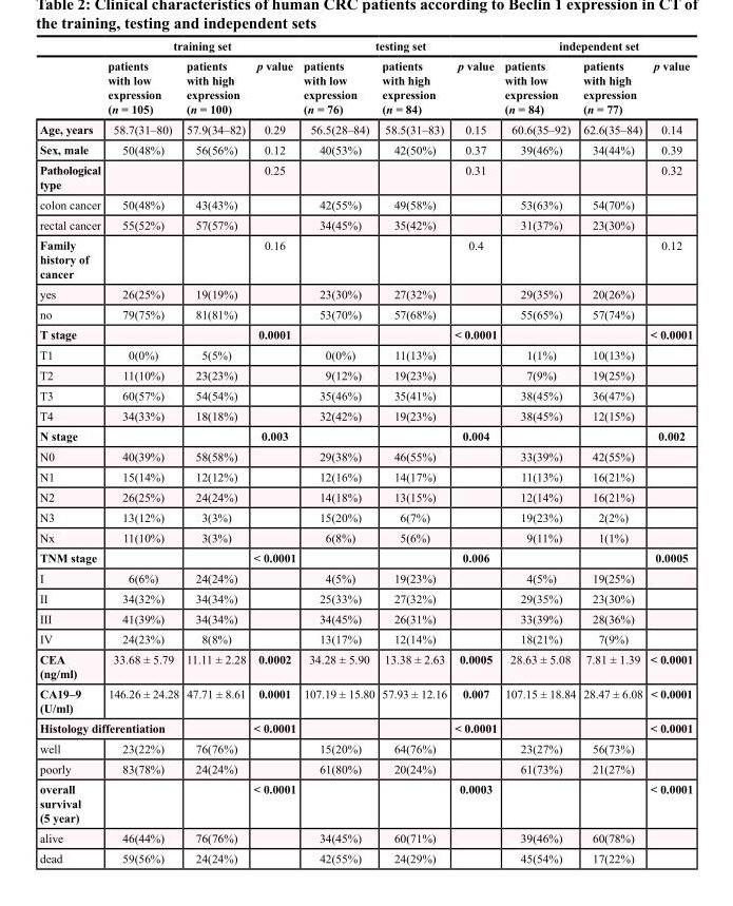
<table><thead><tr><td rowspan="2"></td><td colspan="3">training set</td><td colspan="3">testing set</td><td colspan="3">independent set</td></tr><tr><td>patients with low expression (n = 105)</td><td>patients with high expression (n = 100)</td><td>p value</td><td>patients with low expression (n = 76)</td><td>patients with high expression (n = 84)</td><td>p value</td><td>patients with low expression (n = 84)</td><td>patients with high expression (n = 77)</td><td>p value</td></tr></thead><tbody><tr><td>Age, years</td><td>58.7(31–80)</td><td>57.9(34–82)</td><td>0.29</td><td>56.5(28–84)</td><td>58.5(31–83)</td><td>0.15</td><td>60.6(35–92)</td><td>62.6(35–84)</td><td>0.14</td></tr><tr><td>Sex, male</td><td>50(48%)</td><td>56(56%)</td><td>0.12</td><td>40(53%)</td><td>42(50%)</td><td>0.37</td><td>39(46%)</td><td>34(44%)</td><td>0.39</td></tr><tr><td>Pathological type</td><td></td><td></td><td>0.25</td><td></td><td></td><td>0.31</td><td></td><td></td><td>0.32</td></tr><tr><td>colon cancer</td><td>50(48%)</td><td>43(43%)</td><td></td><td>42(55%)</td><td>49(58%)</td><td></td><td>53(63%)</td><td>54(70%)</td><td></td></tr><tr><td>rectal cancer</td><td>55(52%)</td><td>57(57%)</td><td></td><td>34(45%)</td><td>35(42%)</td><td></td><td>31(37%)</td><td>23(30%)</td><td></td></tr><tr><td>Family history of cancer</td><td></td><td></td><td>0.16</td><td></td><td></td><td>0.4</td><td></td><td></td><td>0.12</td></tr><tr><td>yes</td><td>26(25%)</td><td>19(19%)</td><td></td><td>23(30%)</td><td>27(32%)</td><td></td><td>29(35%)</td><td>20(26%)</td><td></td></tr><tr><td>no</td><td>79(75%)</td><td>81(81%)</td><td></td><td>53(70%)</td><td>57(68%)</td><td></td><td>55(65%)</td><td>57(74%)</td><td></td></tr><tr><td>T stage</td><td></td><td></td><td>0.0001</td><td></td><td></td><td>&lt; 0.0001</td><td></td><td></td><td>&lt; 0.0001</td></tr><tr><td>T1</td><td>0(0%)</td><td>5(5%)</td><td></td><td>0(0%)</td><td>11(13%)</td><td></td><td>1(1%)</td><td>10(13%)</td><td></td></tr><tr><td>T2</td><td>11(10%)</td><td>23(23%)</td><td></td><td>9(12%)</td><td>19(23%)</td><td></td><td>7(9%)</td><td>19(25%)</td><td></td></tr><tr><td>T3</td><td>60(57%)</td><td>54(54%)</td><td></td><td>35(46%)</td><td>35(41%)</td><td></td><td>38(45%)</td><td>36(47%)</td><td></td></tr><tr><td>T4</td><td>34(33%)</td><td>18(18%)</td><td></td><td>32(42%)</td><td>19(23%)</td><td></td><td>38(45%)</td><td>12(15%)</td><td></td></tr><tr><td>N stage</td><td></td><td></td><td>0.003</td><td></td><td></td><td>0.004</td><td></td><td></td><td>0.002</td></tr><tr><td>N0</td><td>40(39%)</td><td>58(58%)</td><td></td><td>29(38%)</td><td>46(55%)</td><td></td><td>33(39%)</td><td>42(55%)</td><td></td></tr><tr><td>N1</td><td>15(14%)</td><td>12(12%)</td><td></td><td>12(16%)</td><td>14(17%)</td><td></td><td>11(13%)</td><td>16(21%)</td><td></td></tr><tr><td>N2</td><td>26(25%)</td><td>24(24%)</td><td></td><td>14(18%)</td><td>13(15%)</td><td></td><td>12(14%)</td><td>16(21%)</td><td></td></tr><tr><td>N3</td><td>13(12%)</td><td>3(3%)</td><td></td><td>15(20%)</td><td>6(7%)</td><td></td><td>19(23%)</td><td>2(2%)</td><td></td></tr><tr><td>Nx</td><td>11(10%)</td><td>3(3%)</td><td></td><td>6(8%)</td><td>5(6%)</td><td></td><td>9(11%)</td><td>1(1%)</td><td></td></tr><tr><td>TNM stage</td><td></td><td></td><td>&lt; 0.0001</td><td></td><td></td><td>0.006</td><td></td><td></td><td>0.0005</td></tr><tr><td>I</td><td>6(6%)</td><td>24(24%)</td><td></td><td>4(5%)</td><td>19(23%)</td><td></td><td>4(5%)</td><td>19(25%)</td><td></td></tr><tr><td>II</td><td>34(32%)</td><td>34(34%)</td><td></td><td>25(33%)</td><td>27(32%)</td><td></td><td>29(35%)</td><td>23(30%)</td><td></td></tr><tr><td>III</td><td>41(39%)</td><td>34(34%)</td><td></td><td>34(45%)</td><td>26(31%)</td><td></td><td>33(39%)</td><td>28(36%)</td><td></td></tr><tr><td>IV</td><td>24(23%)</td><td>8(8%)</td><td></td><td>13(17%)</td><td>12(14%)</td><td></td><td>18(21%)</td><td>7(9%)</td><td></td></tr><tr><td>CEA (ng/ml)</td><td>33.68 ± 5.79</td><td>11.11 ± 2.28</td><td>0.0002</td><td>34.28 ± 5.90</td><td>13.38 ± 2.63</td><td>0.0005</td><td>28.63 ± 5.08</td><td>7.81 ± 1.39</td><td>&lt; 0.0001</td></tr><tr><td>CA19–9 (U/ml)</td><td>146.26 ± 24.28</td><td>47.71 ± 8.61</td><td>0.0001</td><td>107.19 ± 15.80</td><td>57.93 ± 12.16</td><td>0.007</td><td>107.15 ± 18.84</td><td>28.47 ± 6.08</td><td>&lt; 0.0001</td></tr><tr><td colspan="2">Histology differentiation</td><td></td><td>&lt; 0.0001</td><td></td><td></td><td>&lt; 0.0001</td><td></td><td></td><td>&lt; 0.0001</td></tr><tr><td>well</td><td>23(22%)</td><td>76(76%)</td><td></td><td>15(20%)</td><td>64(76%)</td><td></td><td>23(27%)</td><td>56(73%)</td><td></td></tr><tr><td>poorly</td><td>83(78%)</td><td>24(24%)</td><td></td><td>61(80%)</td><td>20(24%)</td><td></td><td>61(73%)</td><td>21(27%)</td><td></td></tr><tr><td>overall survival (5 year)</td><td></td><td></td><td>&lt; 0.0001</td><td></td><td></td><td>0.0003</td><td></td><td></td><td>&lt; 0.0001</td></tr><tr><td>alive</td><td>46(44%)</td><td>76(76%)</td><td></td><td>34(45%)</td><td>60(71%)</td><td></td><td>39(46%)</td><td>60(78%)</td><td></td></tr><tr><td>dead</td><td>59(56%)</td><td>24(24%)</td><td></td><td>42(55%)</td><td>24(29%)</td><td></td><td>45(54%)</td><td>17(22%)</td><td></td></tr></tbody></table>